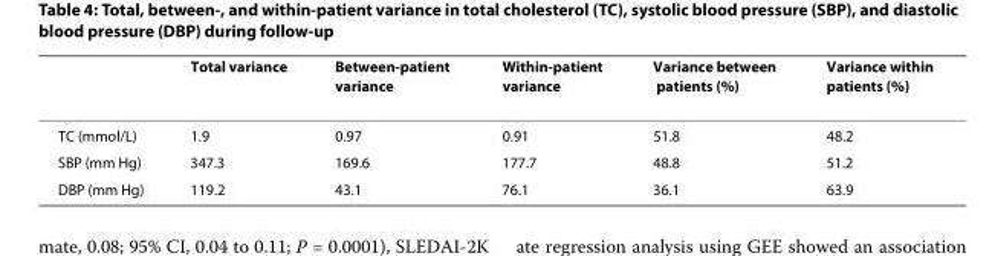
<table><thead><tr><td></td><td>Total variance</td><td>Between-patient variance</td><td>Within-patient variance</td><td>Variance between patients (%)</td><td>Variance within patients (%)</td></tr></thead><tbody><tr><td>TC (mmol/L)</td><td>1.9</td><td>0.97</td><td>0.91</td><td>51.8</td><td>48.2</td></tr><tr><td>SBP (mm Hg)</td><td>347.3</td><td>169.6</td><td>177.7</td><td>48.8</td><td>51.2</td></tr><tr><td>DBP (mm Hg)</td><td>119.2</td><td>43.1</td><td>76.1</td><td>36.1</td><td>63.9</td></tr></tbody></table>